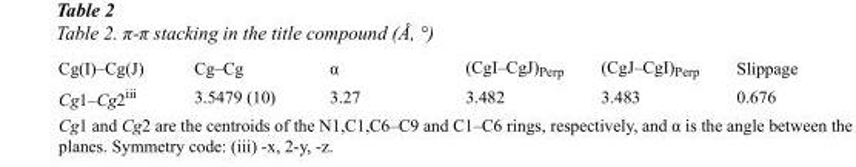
<table><tbody><tr><td>Cg(I)–Cg(J)</td><td>Cg–Cg</td><td>α</td><td>(CgI–CgJ)<sub>Perp</sub></td><td>(CgJ–CgI)<sub>Perp</sub></td><td>Slippage</td></tr><tr><td>Cg1–Cg2<sup>iii</sup></td><td>3.5479 (10)</td><td>3.27</td><td>3.482</td><td>3.483</td><td>0.676</td></tr></tbody></table>